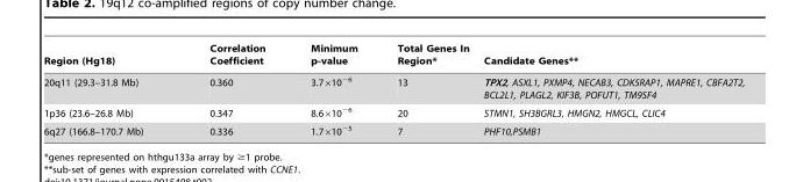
<table><thead><tr><td>Region (Hg18)</td><td>Correlation Coefficient</td><td>Minimum p-value</td><td>Total Genes In Region*</td><td>Candidate Genes**</td></tr></thead><tbody><tr><td>20q11 (29.3–31.8 Mb)</td><td>0.360</td><td>3.7×10<sup>−6</sup></td><td>13</td><td>TPX2, ASXL1, PXMP4, NECAB3, CDK5RAP1, MAPRE1, CBFA2T2, BCL2L1, PLAGL2, KIF3B, POFUT1, TM9SF4</td></tr><tr><td>1p36 (23.6–26.8 Mb)</td><td>0.347</td><td>8.6×10<sup>−6</sup></td><td>20</td><td>STMN1, SH3BGRL3, HMGN2, HMGCL, CLIC4</td></tr><tr><td>6q27 (166.8–170.7 Mb)</td><td>0.336</td><td>1.7×10<sup>−5</sup></td><td>7</td><td>PHF10,PSMB1</td></tr></tbody></table>